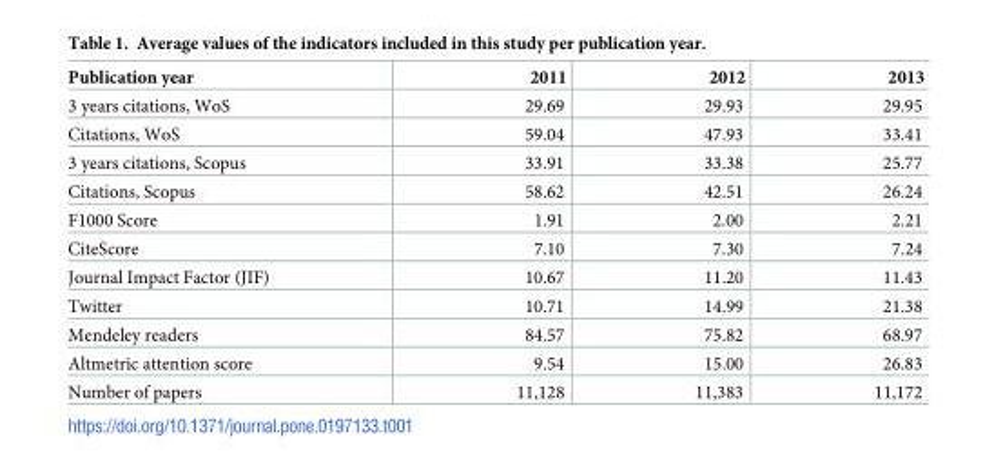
<table><thead><tr><td>Publication year</td><td>2011</td><td>2012</td><td>2013</td></tr></thead><tbody><tr><td>3 years citations, WoS</td><td>29.69</td><td>29.93</td><td>29.95</td></tr><tr><td>Citations, WoS</td><td>59.04</td><td>47.93</td><td>33.41</td></tr><tr><td>3 years citations, Scopus</td><td>33.91</td><td>33.38</td><td>25.77</td></tr><tr><td>Citations, Scopus</td><td>58.62</td><td>42.51</td><td>26.24</td></tr><tr><td>F1000 Score</td><td>1.91</td><td>2.00</td><td>2.21</td></tr><tr><td>CiteScore</td><td>7.10</td><td>7.30</td><td>7.24</td></tr><tr><td>Journal Impact Factor (JIF)</td><td>10.67</td><td>11.20</td><td>11.43</td></tr><tr><td>Twitter</td><td>10.71</td><td>14.99</td><td>21.38</td></tr><tr><td>Mendeley readers</td><td>84.57</td><td>75.82</td><td>68.97</td></tr><tr><td>Altmetric attention score</td><td>9.54</td><td>15.00</td><td>26.83</td></tr><tr><td>Number of papers</td><td>11,128</td><td>11,383</td><td>11,172</td></tr></tbody></table>